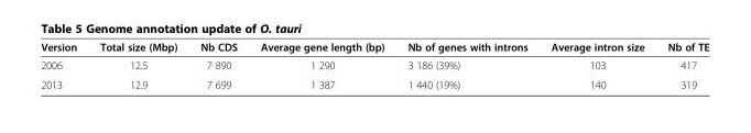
<table><thead><tr><td>Version</td><td>Total size (Mbp)</td><td>Nb CDS</td><td>Average gene length (bp)</td><td>Nb of genes with introns</td><td>Average intron size</td><td>Nb of TE</td></tr></thead><tbody><tr><td>2006</td><td>12.5</td><td>7 890</td><td>1 290</td><td>3 186 (39%)</td><td>103</td><td>417</td></tr><tr><td>2013</td><td>12.9</td><td>7 699</td><td>1 387</td><td>1 440 (19%)</td><td>140</td><td>319</td></tr></tbody></table>